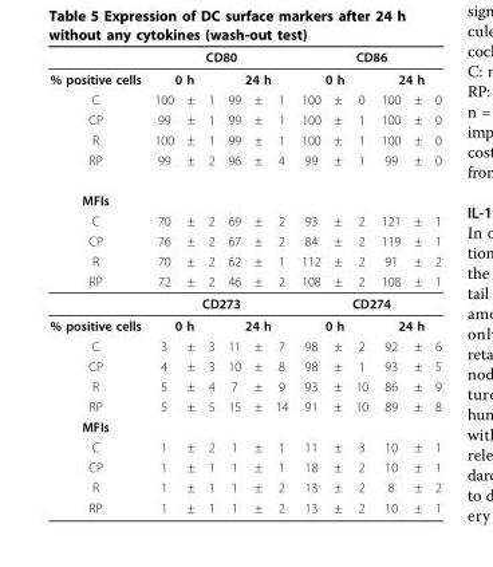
<table><thead><tr><td rowspan="3">% positive cells C</td><td colspan="6">CD80</td><td colspan="6">CD86</td></tr><tr><td colspan="3">0 h</td><td colspan="3">24 h</td><td colspan="3">0 h</td><td colspan="3">24 h</td></tr><tr><td>100</td><td>±</td><td>1</td><td>99</td><td>±</td><td>1</td><td>100</td><td>±</td><td>0</td><td>100</td><td>±</td><td>0</td></tr></thead><tbody><tr><td>CP</td><td>99</td><td>±</td><td>1</td><td>99</td><td>±</td><td>1</td><td>100</td><td>±</td><td>1</td><td>100</td><td>±</td><td>0</td></tr><tr><td>R</td><td>100</td><td>±</td><td>1</td><td>99</td><td>±</td><td>1</td><td>100</td><td>±</td><td>1</td><td>100</td><td>±</td><td>0</td></tr><tr><td>RP</td><td>99</td><td>±</td><td>2</td><td>96</td><td>±</td><td>4</td><td>99</td><td>±</td><td>1</td><td>99</td><td>±</td><td>0</td></tr><tr><td colspan="13">MFIs</td></tr><tr><td>C</td><td>70</td><td>±</td><td>2</td><td>69</td><td>±</td><td>2</td><td>93</td><td>±</td><td>2</td><td>121</td><td>±</td><td>1</td></tr><tr><td>CP</td><td>76</td><td>±</td><td>2</td><td>67</td><td>±</td><td>2</td><td>84</td><td>±</td><td>2</td><td>119</td><td>±</td><td>1</td></tr><tr><td>R</td><td>70</td><td>±</td><td>2</td><td>62</td><td>±</td><td>1</td><td>112</td><td>±</td><td>2</td><td>91</td><td>±</td><td>2</td></tr><tr><td rowspan="2">RP</td><td>72</td><td>±</td><td>2</td><td>46</td><td>±</td><td>2</td><td>108</td><td>±</td><td>2</td><td>108</td><td>±</td><td>1</td></tr><tr><td colspan="6">CD273</td><td colspan="6">CD274</td></tr><tr><td>% positive cells</td><td colspan="3">0 h</td><td colspan="3">24 h</td><td colspan="3">0 h</td><td colspan="3">24 h</td></tr><tr><td>C</td><td>3</td><td>±</td><td>3</td><td>11</td><td>±</td><td>7</td><td>98</td><td>±</td><td>2</td><td>92</td><td>±</td><td>6</td></tr><tr><td>CP</td><td>4</td><td>±</td><td>3</td><td>10</td><td>±</td><td>8</td><td>98</td><td>±</td><td>1</td><td>93</td><td>±</td><td>5</td></tr><tr><td>R</td><td>5</td><td>±</td><td>4</td><td>7</td><td>±</td><td>9</td><td>93</td><td>±</td><td>10</td><td>86</td><td>±</td><td>9</td></tr><tr><td>RP</td><td>5</td><td>±</td><td>5</td><td>15</td><td>±</td><td>14</td><td>91</td><td>±</td><td>10</td><td>89</td><td>±</td><td>8</td></tr><tr><td colspan="13">MFIs</td></tr><tr><td>C</td><td>1</td><td>±</td><td>2</td><td>1</td><td>±</td><td>1</td><td>11</td><td>±</td><td>3</td><td>10</td><td>±</td><td>1</td></tr><tr><td>CP</td><td>1</td><td>±</td><td>1</td><td>1</td><td>±</td><td>1</td><td>18</td><td>±</td><td>2</td><td>10</td><td>±</td><td>1</td></tr><tr><td>R</td><td>1</td><td>±</td><td>1</td><td>1</td><td>±</td><td>2</td><td>13</td><td>±</td><td>2</td><td>8</td><td>±</td><td>2</td></tr><tr><td>RP</td><td>1</td><td>±</td><td>1</td><td>1</td><td>±</td><td>2</td><td>13</td><td>±</td><td>2</td><td>10</td><td>±</td><td>1</td></tr></tbody></table>